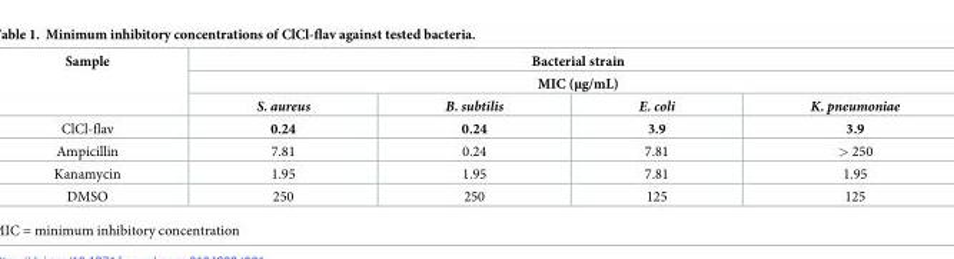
<table><thead><tr><td rowspan="3">Sample</td><td rowspan="2" colspan="4">Bacterial strain MIC (μg/mL)</td></tr><tr></tr><tr><td>S. aureus</td><td>B. subtilis</td><td>E. coli</td><td>K. pneumoniae</td></tr></thead><tbody><tr><td>ClCl-flav</td><td>0.24</td><td>0.24</td><td>3.9</td><td>3.9</td></tr><tr><td>Ampicillin</td><td>7.81</td><td>0.24</td><td>7.81</td><td>&gt; 250</td></tr><tr><td>Kanamycin</td><td>1.95</td><td>1.95</td><td>7.81</td><td>1.95</td></tr><tr><td>DMSO</td><td>250</td><td>250</td><td>125</td><td>125</td></tr></tbody></table>